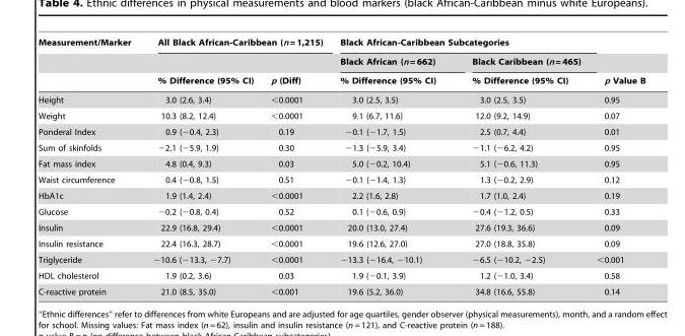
<table><thead><tr><td rowspan="3">Measurement/Marker</td><td colspan="2">All Black African-Caribbean (n = 1,215)</td><td colspan="2">Black African-Caribbean Subcategories</td><td rowspan="3">p Value B</td></tr><tr><td rowspan="2">% Difference (95% CI)</td><td rowspan="2">p (Diff)</td><td rowspan="2">Black African (n = 662) % Difference (95% CI)</td><td rowspan="2">Black Caribbean (n = 465) % Difference (95% CI)</td></tr><tr></tr></thead><tbody><tr><td>Height</td><td>3.0 (2.6, 3.4)</td><td>&lt;0.0001</td><td>3.0 (2.5, 3.5)</td><td>3.0 (2.5, 3.5)</td><td>0.95</td></tr><tr><td>Weight</td><td>10.3 (8.2, 12.4)</td><td>&lt;0.0001</td><td>9.1 (6.7, 11.6)</td><td>12.0 (9.2, 14.9)</td><td>0.07</td></tr><tr><td>Ponderal Index</td><td>0.9 (−0.4, 2.3)</td><td>0.19</td><td>−0.1 (−1.7, 1.5)</td><td>2.5 (0.7, 4.4)</td><td>0.01</td></tr><tr><td>Sum of skinfolds</td><td>−2.1 (−5.9, 1.9)</td><td>0.30</td><td>−1.3 (−5.9, 3.4)</td><td>−1.1 (−6.2, 4.2)</td><td>0.95</td></tr><tr><td>Fat mass index</td><td>4.8 (0.4, 9.3)</td><td>0.03</td><td>5.0 (−0.2, 10.4)</td><td>5.1 (−0.6, 11.3)</td><td>0.95</td></tr><tr><td>Waist circumference</td><td>0.4 (−0.8, 1.5)</td><td>0.51</td><td>−0.1 (−1.4, 1.3)</td><td>1.3 (−0.2, 2.9)</td><td>0.12</td></tr><tr><td>HbA1c</td><td>1.9 (1.4, 2.4)</td><td>&lt;0.0001</td><td>2.2 (1.6, 2.8)</td><td>1.7 (1.0, 2.4)</td><td>0.19</td></tr><tr><td>Glucose</td><td>−0.2 (−0.8, 0.4)</td><td>0.52</td><td>0.1 (−0.6, 0.9)</td><td>−0.4 (−1.2, 0.5)</td><td>0.33</td></tr><tr><td>Insulin</td><td>22.9 (16.8, 29.4)</td><td>&lt;0.0001</td><td>20.0 (13.0, 27.4)</td><td>27.6 (19.3, 36.6)</td><td>0.09</td></tr><tr><td>Insulin resistance</td><td>22.4 (16.3, 28.7)</td><td>&lt;0.0001</td><td>19.6 (12.6, 27.0)</td><td>27.0 (18.8, 35.8)</td><td>0.09</td></tr><tr><td>Triglyceride</td><td>−10.6 (−13.3, −7.7)</td><td>&lt;0.0001</td><td>−13.3 (−16.4, −10.1)</td><td>−6.5 (−10.2, −2.5)</td><td>&lt;0.001</td></tr><tr><td>HDL cholesterol</td><td>1.9 (0.2, 3.6)</td><td>0.03</td><td>1.9 (−0.1, 3.9)</td><td>1.2 (−1.0, 3.4)</td><td>0.58</td></tr><tr><td>C-reactive protein</td><td>21.0 (8.5, 35.0)</td><td>&lt;0.001</td><td>19.6 (5.2, 36.0)</td><td>34.8 (16.6, 55.8)</td><td>0.14</td></tr></tbody></table>